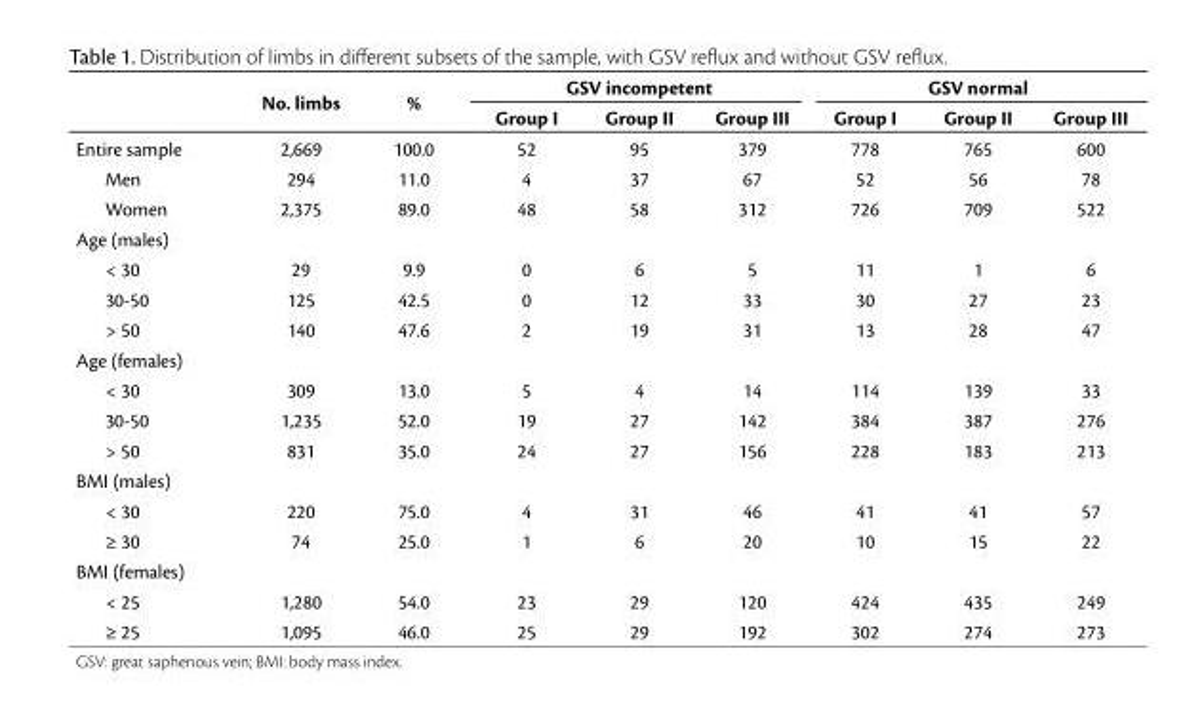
<table><thead><tr><td rowspan="2"></td><td rowspan="2">No. limbs</td><td rowspan="2">%</td><td colspan="3">GSV incompetent</td><td colspan="3">GSV normal</td></tr><tr><td>Group I</td><td>Group II</td><td>Group III</td><td>Group I</td><td>Group II</td><td>Group III</td></tr></thead><tbody><tr><td>Entire sample</td><td>2,669</td><td>100.0</td><td>52</td><td>95</td><td>379</td><td>778</td><td>765</td><td>600</td></tr><tr><td>Men</td><td>294</td><td>11.0</td><td>4</td><td>37</td><td>67</td><td>52</td><td>56</td><td>78</td></tr><tr><td>Women</td><td>2,375</td><td>89.0</td><td>48</td><td>58</td><td>312</td><td>726</td><td>709</td><td>522</td></tr><tr><td colspan="9">Age (males)</td></tr><tr><td>&lt; 30</td><td>29</td><td>9.9</td><td>0</td><td>6</td><td>5</td><td>11</td><td>1</td><td>6</td></tr><tr><td>30-50</td><td>125</td><td>42.5</td><td>0</td><td>12</td><td>33</td><td>30</td><td>27</td><td>23</td></tr><tr><td>&gt; 50</td><td>140</td><td>47.6</td><td>2</td><td>19</td><td>31</td><td>13</td><td>28</td><td>47</td></tr><tr><td colspan="9">Age (females)</td></tr><tr><td>&lt; 30</td><td>309</td><td>13.0</td><td>5</td><td>4</td><td>14</td><td>114</td><td>139</td><td>33</td></tr><tr><td>30-50</td><td>1,235</td><td>52.0</td><td>19</td><td>27</td><td>142</td><td>384</td><td>387</td><td>276</td></tr><tr><td>&gt; 50</td><td>831</td><td>35.0</td><td>24</td><td>27</td><td>156</td><td>228</td><td>183</td><td>213</td></tr><tr><td colspan="9">BMI (males)</td></tr><tr><td>&lt; 30</td><td>220</td><td>75.0</td><td>4</td><td>31</td><td>46</td><td>41</td><td>41</td><td>57</td></tr><tr><td>≥ 30</td><td>74</td><td>25.0</td><td>1</td><td>6</td><td>20</td><td>10</td><td>15</td><td>22</td></tr><tr><td colspan="9">BMI (females)</td></tr><tr><td>&lt; 25</td><td>1,280</td><td>54.0</td><td>23</td><td>29</td><td>120</td><td>424</td><td>435</td><td>249</td></tr><tr><td>≥ 25</td><td>1,095</td><td>46.0</td><td>25</td><td>29</td><td>192</td><td>302</td><td>274</td><td>273</td></tr></tbody></table>